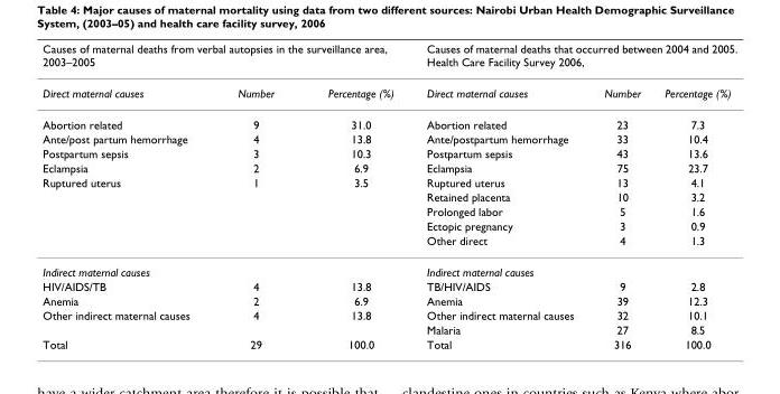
<table><thead><tr><td colspan="3">Causes of maternal deaths from verbal autopsies in the surveillance area, 2003–2005</td><td colspan="3">Causes of maternal deaths that occurred between 2004 and 2005. Health Care Facility Survey 2006,</td></tr><tr><td>Direct maternal causes</td><td>Number</td><td>Percentage (%)</td><td>Direct maternal causes</td><td>Number</td><td>Percentage (%)</td></tr></thead><tbody><tr><td>Abortion related</td><td>9</td><td>31.0</td><td>Abortion related</td><td>23</td><td>7.3</td></tr><tr><td>Ante/post partum hemorrhage</td><td>4</td><td>13.8</td><td>Ante/postpartum hemorrhage</td><td>33</td><td>10.4</td></tr><tr><td>Postpartum sepsis</td><td>3</td><td>10.3</td><td>Postpartum sepsis</td><td>43</td><td>13.6</td></tr><tr><td>Eclampsia</td><td>2</td><td>6.9</td><td>Eclampsia</td><td>75</td><td>23.7</td></tr><tr><td rowspan="5">Ruptured uterus</td><td>1</td><td>3.5</td><td>Ruptured uterus</td><td>13</td><td>4.1</td></tr><tr><td></td><td></td><td>Retained placenta</td><td>10</td><td>3.2</td></tr><tr><td></td><td></td><td>Prolonged labor</td><td>5</td><td>1.6</td></tr><tr><td></td><td></td><td>Ectopic pregnancy</td><td>3</td><td>0.9</td></tr><tr><td></td><td></td><td>Other direct</td><td>4</td><td>1.3</td></tr><tr><td>Indirect maternal causes</td><td></td><td></td><td>Indirect maternal causes</td><td></td><td></td></tr><tr><td>HIV/AIDS/TB</td><td>4</td><td>13.8</td><td>TB/HIV/AIDS</td><td>9</td><td>2.8</td></tr><tr><td>Anemia</td><td>2</td><td>6.9</td><td>Anemia</td><td>39</td><td>12.3</td></tr><tr><td rowspan="2">Other indirect maternal causes</td><td>4</td><td>13.8</td><td>Other indirect maternal causes</td><td>32</td><td>10.1</td></tr><tr><td></td><td></td><td>Malaria</td><td>27</td><td>8.5</td></tr><tr><td>Total</td><td>29</td><td>100.0</td><td>Total</td><td>316</td><td>100.0</td></tr></tbody></table>